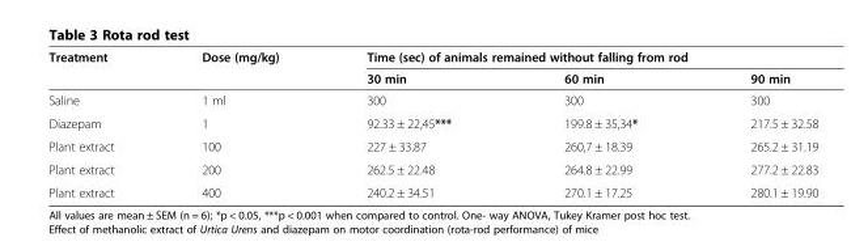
<table><thead><tr><td rowspan="2">Treatment</td><td rowspan="2">Dose (mg/kg)</td><td colspan="3">Time (sec) of animals remained without falling from rod</td></tr><tr><td>30 min</td><td>60 min</td><td>90 min</td></tr></thead><tbody><tr><td>Saline</td><td>1 ml</td><td>300</td><td>300</td><td>300</td></tr><tr><td>Diazepam</td><td>1</td><td>92.33 ± 22,45***</td><td>199.8 ± 35,34*</td><td>217.5 ± 32.58</td></tr><tr><td>Plant extract</td><td>100</td><td>227 ± 33.87</td><td>260,7 ± 18.39</td><td>265.2 ± 31.19</td></tr><tr><td>Plant extract</td><td>200</td><td>262.5 ± 22.48</td><td>264.8 ± 22.99</td><td>277.2 ± 22.83</td></tr><tr><td>Plant extract</td><td>400</td><td>240.2 ± 34.51</td><td>270.1 ± 17.25</td><td>280.1 ± 19.90</td></tr></tbody></table>